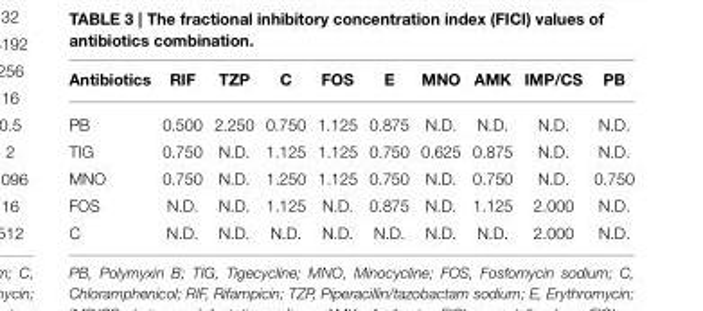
<table><thead><tr><td>Antibiotics</td><td>RIF</td><td>TZP</td><td>C</td><td>FOS</td><td>E</td><td>MNO</td><td>AMK</td><td>IMP/CS</td><td>PB</td></tr></thead><tbody><tr><td>PB</td><td>0.500</td><td>2.250</td><td>0.750</td><td>1.125</td><td>0.875</td><td>N.D.</td><td>N.D.</td><td>N.D.</td><td>N.D.</td></tr><tr><td>TIG</td><td>0.750</td><td>N.D.</td><td>1.125</td><td>1.125</td><td>0.750</td><td>0.625</td><td>0.875</td><td>N.D.</td><td>N.D.</td></tr><tr><td>MNO</td><td>0.750</td><td>N.D.</td><td>1.250</td><td>1.125</td><td>0.750</td><td>N.D.</td><td>0.750</td><td>N.D.</td><td>0.750</td></tr><tr><td>FOS</td><td>N.D.</td><td>N.D.</td><td>1.125</td><td>N.D.</td><td>0.875</td><td>N.D.</td><td>1.125</td><td>2.000</td><td>N.D.</td></tr><tr><td>C</td><td>N.D.</td><td>N.D.</td><td>N.D.</td><td>N.D.</td><td>N.D.</td><td>N.D.</td><td>N.D.</td><td>2.000</td><td>N.D.</td></tr></tbody></table>